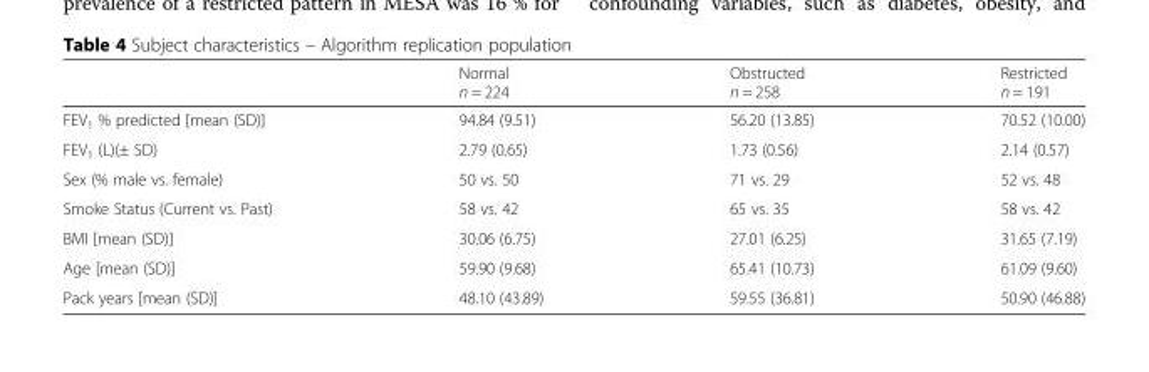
<table><thead><tr><td></td><td>Normal n = 224</td><td>Obstructed n = 258</td><td>Restricted n = 191</td></tr></thead><tbody><tr><td>FEV<sub>1</sub> % predicted [mean (SD)]</td><td>94.84 (9.51)</td><td>56.20 (13.85)</td><td>70.52 (10.00)</td></tr><tr><td>FEV<sub>1</sub> (L)(± SD)</td><td>2.79 (0.65)</td><td>1.73 (0.56)</td><td>2.14 (0.57)</td></tr><tr><td>Sex (% male vs. female)</td><td>50 vs. 50</td><td>71 vs. 29</td><td>52 vs. 48</td></tr><tr><td>Smoke Status (Current vs. Past)</td><td>58 vs. 42</td><td>65 vs. 35</td><td>58 vs. 42</td></tr><tr><td>BMI [mean (SD)]</td><td>30.06 (6.75)</td><td>27.01 (6.25)</td><td>31.65 (7.19)</td></tr><tr><td>Age [mean (SD)]</td><td>59.90 (9.68)</td><td>65.41 (10.73)</td><td>61.09 (9.60)</td></tr><tr><td>Pack years [mean (SD)]</td><td>48.10 (43.89)</td><td>59.55 (36.81)</td><td>50.90 (46.88)</td></tr></tbody></table>